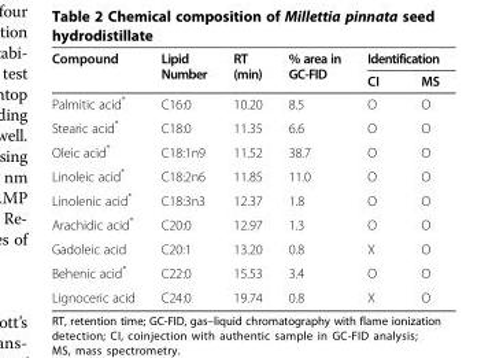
<table><thead><tr><td rowspan="2">Compound</td><td rowspan="2">Lipid Number</td><td rowspan="2">RT (min)</td><td rowspan="2">% area in GC-FID</td><td colspan="2">Identification</td></tr><tr><td>CI</td><td>MS</td></tr></thead><tbody><tr><td>Palmitic acid*</td><td>C16:0</td><td>10.20</td><td>8.5</td><td>O</td><td>O</td></tr><tr><td>Stearic acid*</td><td>C18:0</td><td>11.35</td><td>6.6</td><td>O</td><td>O</td></tr><tr><td>Oleic acid*</td><td>C18:1n9</td><td>11.52</td><td>38.7</td><td>O</td><td>O</td></tr><tr><td>Linoleic acid*</td><td>C18:2n6</td><td>11.85</td><td>11.0</td><td>O</td><td>O</td></tr><tr><td>Linolenic acid*</td><td>C18:3n3</td><td>12.37</td><td>1.8</td><td>O</td><td>O</td></tr><tr><td>Arachidic acid*</td><td>C20:0</td><td>12.97</td><td>1.3</td><td>O</td><td>O</td></tr><tr><td>Gadoleic acid</td><td>C20:1</td><td>13.20</td><td>0.8</td><td>Χ</td><td>O</td></tr><tr><td>Behenic acid*</td><td>C22:0</td><td>15.53</td><td>3.4</td><td>O</td><td>O</td></tr><tr><td>Lignoceric acid</td><td>C24:0</td><td>19.74</td><td>0.8</td><td>Χ</td><td>O</td></tr></tbody></table>